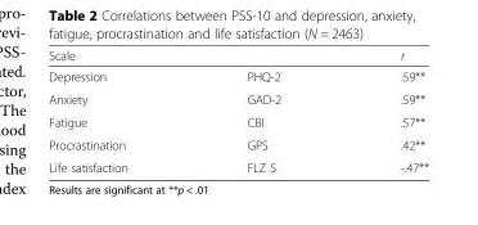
<table><thead><tr><td>Scale</td><td></td><td>r</td></tr></thead><tbody><tr><td>Depression</td><td>PHQ-2</td><td>.59**</td></tr><tr><td>Anxiety</td><td>GAD-2</td><td>.59**</td></tr><tr><td>Fatigue</td><td>CBI</td><td>.57**</td></tr><tr><td>Procrastination</td><td>GPS</td><td>.42**</td></tr><tr><td>Life satisfaction</td><td>FLZ S</td><td>-.47**</td></tr></tbody></table>